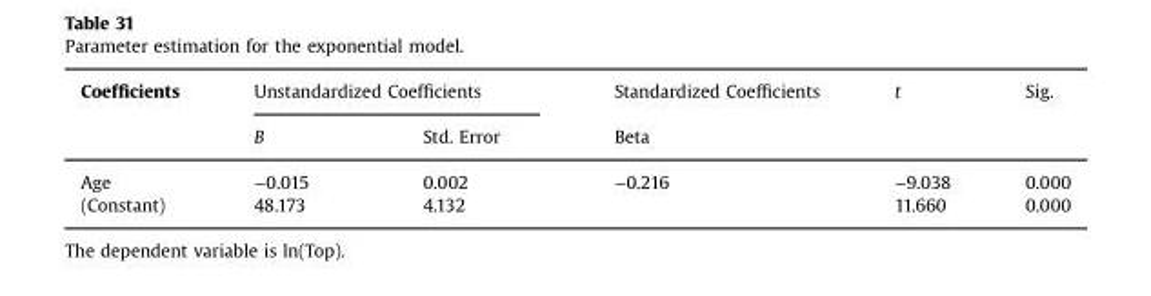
<table><thead><tr><td rowspan="2">Coefficients</td><td colspan="2">Unstandardized Coefficients</td><td rowspan="2">Standardized Coefficients Beta</td><td rowspan="2">t</td><td rowspan="2">Sig.</td></tr><tr><td>B</td><td>Std. Error</td></tr></thead><tbody><tr><td>Age</td><td>−0.015</td><td>0.002</td><td>−0.216</td><td>−9.038</td><td>0.000</td></tr><tr><td>(Constant)</td><td>48.173</td><td>4.132</td><td></td><td>11.660</td><td>0.000</td></tr></tbody></table>